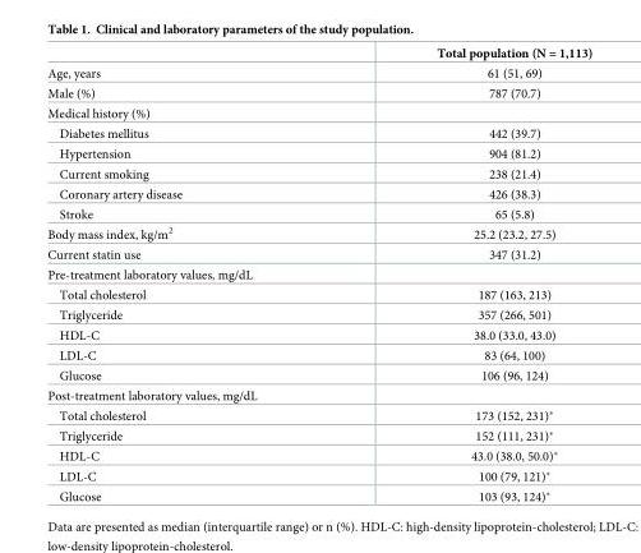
<table><thead><tr><td></td><td>Total population (N = 1,113)</td></tr></thead><tbody><tr><td>Age, years</td><td>61 (51, 69)</td></tr><tr><td>Male (%)</td><td>787 (70.7)</td></tr><tr><td colspan="2">Medical history (%)</td></tr><tr><td>Diabetes mellitus</td><td>442 (39.7)</td></tr><tr><td>Hypertension</td><td>904 (81.2)</td></tr><tr><td>Current smoking</td><td>238 (21.4)</td></tr><tr><td>Coronary artery disease</td><td>426 (38.3)</td></tr><tr><td>Stroke</td><td>65 (5.8)</td></tr><tr><td>Body mass index, kg/m<sup>2</sup></td><td>25.2 (23.2, 27.5)</td></tr><tr><td>Current statin use</td><td>347 (31.2)</td></tr><tr><td colspan="2">Pre-treatment laboratory values, mg/dL</td></tr><tr><td>Total cholesterol</td><td>187 (163, 213)</td></tr><tr><td>Triglyceride</td><td>357 (266, 501)</td></tr><tr><td>HDL-C</td><td>38.0 (33.0, 43.0)</td></tr><tr><td>LDL-C</td><td>83 (64, 100)</td></tr><tr><td>Glucose</td><td>106 (96, 124)</td></tr><tr><td colspan="2">Post-treatment laboratory values, mg/dL</td></tr><tr><td>Total cholesterol</td><td>173 (152, 231)*</td></tr><tr><td>Triglyceride</td><td>152 (111, 231)*</td></tr><tr><td>HDL-C</td><td>43.0 (38.0, 50.0)*</td></tr><tr><td>LDL-C</td><td>100 (79, 121)*</td></tr><tr><td>Glucose</td><td>103 (93, 124)*</td></tr></tbody></table>